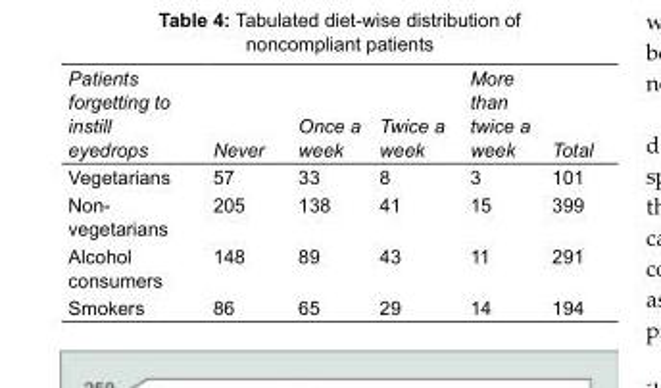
<table><tbody><tr><td>Patients forgetting to instill eyedrops</td><td>Never</td><td>Once a week</td><td>Twice a week</td><td>More than twice a week</td><td>Total</td></tr><tr><td>Vegetarians</td><td>57</td><td>33</td><td>8</td><td>3</td><td>101</td></tr><tr><td>Non- vegetarians</td><td>205</td><td>138</td><td>41</td><td>15</td><td>399</td></tr><tr><td>Alcohol consumers</td><td>148</td><td>89</td><td>43</td><td>11</td><td>291</td></tr><tr><td>Smokers</td><td>86</td><td>65</td><td>29</td><td>14</td><td>194</td></tr></tbody></table>